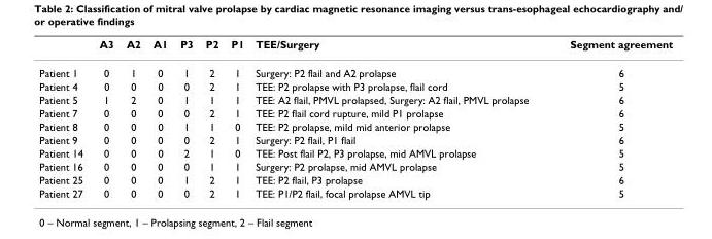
<table><thead><tr><td></td><td>A3</td><td>A2</td><td>A1</td><td>P3</td><td>P2</td><td>P1</td><td>TEE/Surgery</td><td>Segment agreement</td></tr></thead><tbody><tr><td>Patient 1</td><td>0</td><td>1</td><td>0</td><td>1</td><td>2</td><td>1</td><td>Surgery: P2 flail and A2 prolapse</td><td>6</td></tr><tr><td>Patient 4</td><td>0</td><td>0</td><td>0</td><td>0</td><td>2</td><td>1</td><td>TEE: P2 prolapse with P3 prolapse, flail cord</td><td>5</td></tr><tr><td>Patient 5</td><td>1</td><td>2</td><td>0</td><td>1</td><td>1</td><td>1</td><td>TEE: A2 flail, PMVL prolapsed, Surgery: A2 flail, PMVL prolapse</td><td>6</td></tr><tr><td>Patient 7</td><td>0</td><td>0</td><td>0</td><td>0</td><td>2</td><td>1</td><td>TEE: P2 flail cord rupture, mild P1 prolapse</td><td>6</td></tr><tr><td>Patient 8</td><td>0</td><td>0</td><td>0</td><td>1</td><td>1</td><td>0</td><td>TEE: P2 prolapse, mild mid anterior prolapse</td><td>5</td></tr><tr><td>Patient 9</td><td>0</td><td>0</td><td>0</td><td>0</td><td>2</td><td>1</td><td>Surgery: P2 flail, P1 flail</td><td>6</td></tr><tr><td>Patient 14</td><td>0</td><td>0</td><td>0</td><td>2</td><td>1</td><td>0</td><td>TEE: Post flail P2, P3 prolapse, mid AMVL prolapse</td><td>5</td></tr><tr><td>Patient 16</td><td>0</td><td>0</td><td>0</td><td>0</td><td>1</td><td>1</td><td>Surgery: P2 prolapse, mid AMVL prolapse</td><td>5</td></tr><tr><td>Patient 25</td><td>0</td><td>0</td><td>0</td><td>1</td><td>2</td><td>1</td><td>TEE: P2 flail, P3 prolapse</td><td>6</td></tr><tr><td>Patient 27</td><td>0</td><td>0</td><td>0</td><td>0</td><td>2</td><td>1</td><td>TEE: P1/P2 flail, focal prolapse AMVL tip</td><td>5</td></tr></tbody></table>